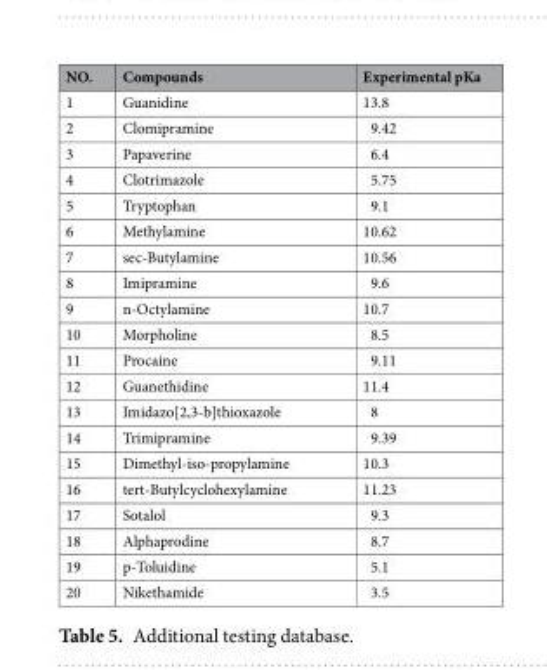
<table><thead><tr><td>NO.</td><td>Compounds</td><td>Experimental pKa</td></tr></thead><tbody><tr><td>1</td><td>Guanidine</td><td>13.8</td></tr><tr><td>2</td><td>Clomipramine</td><td>9.42</td></tr><tr><td>3</td><td>Papaverine</td><td>6.4</td></tr><tr><td>4</td><td>Clotrimazole</td><td>5.75</td></tr><tr><td>5</td><td>Tryptophan</td><td>9.1</td></tr><tr><td>6</td><td>Methylamine</td><td>10.62</td></tr><tr><td>7</td><td>sec-Butylamine</td><td>10.56</td></tr><tr><td>8</td><td>Imipramine</td><td>9.6</td></tr><tr><td>9</td><td>n-Octylamine</td><td>10.7</td></tr><tr><td>10</td><td>Morpholine</td><td>8.5</td></tr><tr><td>11</td><td>Procaine</td><td>9.11</td></tr><tr><td>12</td><td>Guanethidine</td><td>11.4</td></tr><tr><td>13</td><td>Imidazo[2,3-b]thioxazole</td><td>8</td></tr><tr><td>14</td><td>Trimipramine</td><td>9.39</td></tr><tr><td>15</td><td>Dimethyl-iso-propylamine</td><td>10.3</td></tr><tr><td>16</td><td>tert-Butylcyclohexylamine</td><td>11.23</td></tr><tr><td>17</td><td>Sotalol</td><td>9.3</td></tr><tr><td>18</td><td>Alphaprodine</td><td>8.7</td></tr><tr><td>19</td><td>p-Toluidine</td><td>5.1</td></tr><tr><td>20</td><td>Nikethamide</td><td>3.5</td></tr></tbody></table>